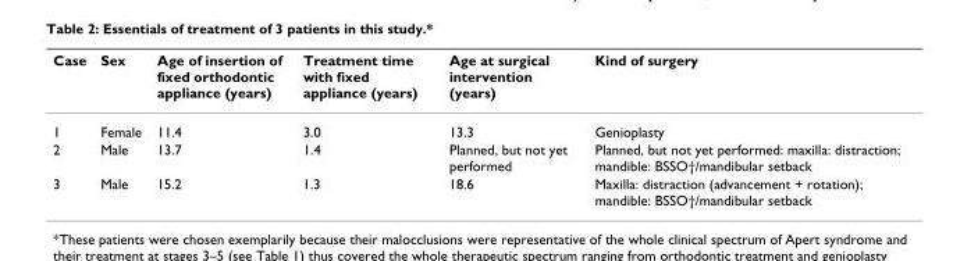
<table><thead><tr><td>Case</td><td>Sex</td><td>Age of insertion of fixed orthodontic appliance (years)</td><td>Treatment time with fixed appliance (years)</td><td>Age at surgical intervention (years)</td><td>Kind of surgery</td></tr></thead><tbody><tr><td>1</td><td>Female</td><td>11.4</td><td>3.0</td><td>13.3</td><td>Genioplasty</td></tr><tr><td>2</td><td>Male</td><td>13.7</td><td>1.4</td><td>Planned, but not yet performed</td><td>Planned, but not yet performed: maxilla: distraction; mandible: BSSO†/mandibular setback</td></tr><tr><td>3</td><td>Male</td><td>15.2</td><td>1.3</td><td>18.6</td><td>Maxilla: distraction (advancement + rotation); mandible: BSSO†/mandibular setback</td></tr></tbody></table>